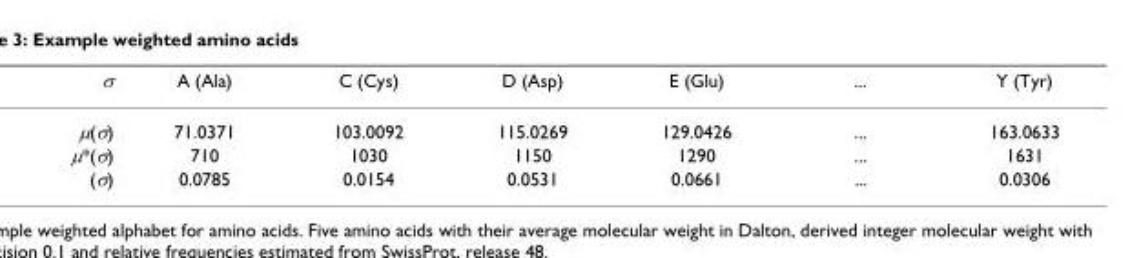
<table><thead><tr><td>σ</td><td>A (Ala)</td><td>C (Cys)</td><td>D (Asp)</td><td>E (Glu)</td><td>...</td><td>Y (Tyr)</td></tr></thead><tbody><tr><td>μ(σ)</td><td>71.0371</td><td>103.0092</td><td>115.0269</td><td>129.0426</td><td>...</td><td>163.0633</td></tr><tr><td>μ*(σ)</td><td>710</td><td>1030</td><td>1150</td><td>1290</td><td>...</td><td>1631</td></tr><tr><td>(σ)</td><td>0.0785</td><td>0.0154</td><td>0.0531</td><td>0.0661</td><td>...</td><td>0.0306</td></tr></tbody></table>